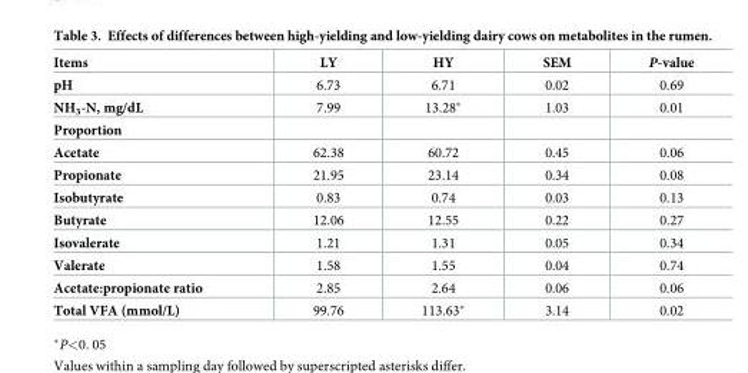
<table><thead><tr><td>Items</td><td>LY</td><td>HY</td><td>SEM</td><td>P-value</td></tr></thead><tbody><tr><td>pH</td><td>6.73</td><td>6.71</td><td>0.02</td><td>0.69</td></tr><tr><td>NH<sub>3</sub>-N, mg/dL</td><td>7.99</td><td>13.28*</td><td>1.03</td><td>0.01</td></tr><tr><td colspan="5">Proportion</td></tr><tr><td>Acetate</td><td>62.38</td><td>60.72</td><td>0.45</td><td>0.06</td></tr><tr><td>Propionate</td><td>21.95</td><td>23.14</td><td>0.34</td><td>0.08</td></tr><tr><td>Isobutyrate</td><td>0.83</td><td>0.74</td><td>0.03</td><td>0.13</td></tr><tr><td>Butyrate</td><td>12.06</td><td>12.55</td><td>0.22</td><td>0.27</td></tr><tr><td>Isovalerate</td><td>1.21</td><td>1.31</td><td>0.05</td><td>0.34</td></tr><tr><td>Valerate</td><td>1.58</td><td>1.55</td><td>0.04</td><td>0.74</td></tr><tr><td>Acetate:propionate ratio</td><td>2.85</td><td>2.64</td><td>0.06</td><td>0.06</td></tr><tr><td>Total VFA (mmol/L)</td><td>99.76</td><td>113.63*</td><td>3.14</td><td>0.02</td></tr></tbody></table>